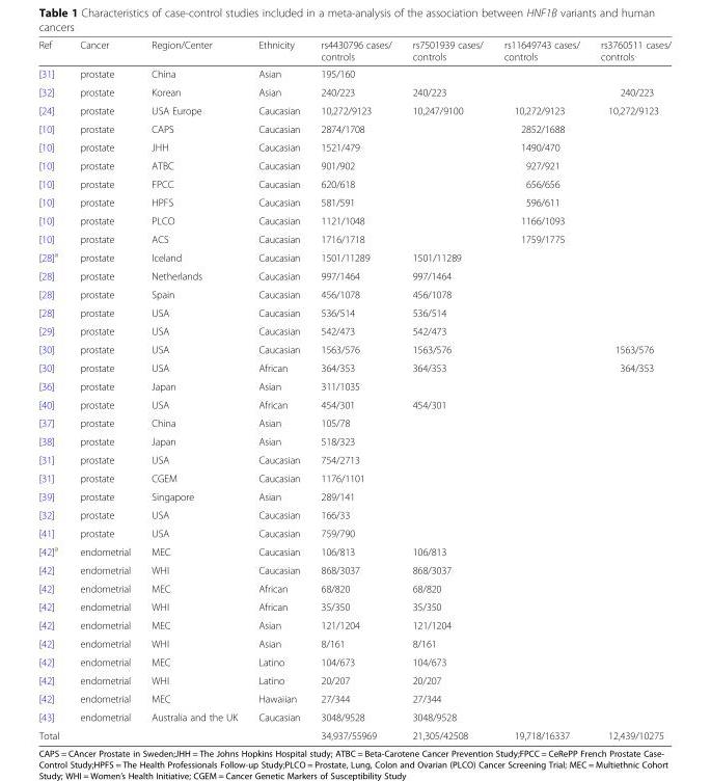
<table><thead><tr><td>Ref</td><td>Cancer</td><td>Region/Center</td><td>Ethnicity</td><td>rs4430796 cases/ controls</td><td>rs7501939 cases/ controls</td><td>rs11649743 cases/ controls</td><td>rs3760511 cases/ controls</td></tr></thead><tbody><tr><td>[31]</td><td>prostate</td><td>China</td><td>Asian</td><td>195/160</td><td></td><td></td><td></td></tr><tr><td>[32]</td><td>prostate</td><td>Korean</td><td>Asian</td><td>240/223</td><td>240/223</td><td></td><td>240/223</td></tr><tr><td>[24]</td><td>prostate</td><td>USA Europe</td><td>Caucasian</td><td>10,272/9123</td><td>10,247/9100</td><td>10,272/9123</td><td>10,272/9123</td></tr><tr><td>[10]</td><td>prostate</td><td>CAPS</td><td>Caucasian</td><td>2874/1708</td><td></td><td>2852/1688</td><td></td></tr><tr><td>[10]</td><td>prostate</td><td>JHH</td><td>Caucasian</td><td>1521/479</td><td></td><td>1490/470</td><td></td></tr><tr><td>[10]</td><td>prostate</td><td>ATBC</td><td>Caucasian</td><td>901/902</td><td></td><td>927/921</td><td></td></tr><tr><td>[10]</td><td>prostate</td><td>FPCC</td><td>Caucasian</td><td>620/618</td><td></td><td>656/656</td><td></td></tr><tr><td>[10]</td><td>prostate</td><td>HPFS</td><td>Caucasian</td><td>581/591</td><td></td><td>596/611</td><td></td></tr><tr><td>[10]</td><td>prostate</td><td>PLCO</td><td>Caucasian</td><td>1121/1048</td><td></td><td>1166/1093</td><td></td></tr><tr><td>[10]</td><td>prostate</td><td>ACS</td><td>Caucasian</td><td>1716/1718</td><td></td><td>1759/1775</td><td></td></tr><tr><td>[28]<sup>a</sup></td><td>prostate</td><td>Iceland</td><td>Caucasian</td><td>1501/11289</td><td>1501/11289</td><td></td><td></td></tr><tr><td>[28]</td><td>prostate</td><td>Netherlands</td><td>Caucasian</td><td>997/1464</td><td>997/1464</td><td></td><td></td></tr><tr><td>[28]</td><td>prostate</td><td>Spain</td><td>Caucasian</td><td>456/1078</td><td>456/1078</td><td></td><td></td></tr><tr><td>[28]</td><td>prostate</td><td>USA</td><td>Caucasian</td><td>536/514</td><td>536/514</td><td></td><td></td></tr><tr><td>[29]</td><td>prostate</td><td>USA</td><td>Caucasian</td><td>542/473</td><td>542/473</td><td></td><td></td></tr><tr><td>[30]</td><td>prostate</td><td>USA</td><td>Caucasian</td><td>1563/576</td><td>1563/576</td><td></td><td>1563/576</td></tr><tr><td>[30]</td><td>prostate</td><td>USA</td><td>African</td><td>364/353</td><td>364/353</td><td></td><td>364/353</td></tr><tr><td>[36]</td><td>prostate</td><td>Japan</td><td>Asian</td><td>311/1035</td><td></td><td></td><td></td></tr><tr><td>[40]</td><td>prostate</td><td>USA</td><td>African</td><td>454/301</td><td>454/301</td><td></td><td></td></tr><tr><td>[37]</td><td>prostate</td><td>China</td><td>Asian</td><td>105/78</td><td></td><td></td><td></td></tr><tr><td>[38]</td><td>prostate</td><td>Japan</td><td>Asian</td><td>518/323</td><td></td><td></td><td></td></tr><tr><td>[31]</td><td>prostate</td><td>USA</td><td>Caucasian</td><td>754/2713</td><td></td><td></td><td></td></tr><tr><td>[31]</td><td>prostate</td><td>CGEM</td><td>Caucasian</td><td>1176/1101</td><td></td><td></td><td></td></tr><tr><td>[39]</td><td>prostate</td><td>Singapore</td><td>Asian</td><td>289/141</td><td></td><td></td><td></td></tr><tr><td>[32]</td><td>prostate</td><td>USA</td><td>Caucasian</td><td>166/33</td><td></td><td></td><td></td></tr><tr><td>[41]</td><td>prostate</td><td>USA</td><td>Caucasian</td><td>759/790</td><td></td><td></td><td></td></tr><tr><td>[42]<sup>a</sup></td><td>endometrial</td><td>MEC</td><td>Caucasian</td><td>106/813</td><td>106/813</td><td></td><td></td></tr><tr><td>[42]</td><td>endometrial</td><td>WHI</td><td>Caucasian</td><td>868/3037</td><td>868/3037</td><td></td><td></td></tr><tr><td>[42]</td><td>endometrial</td><td>MEC</td><td>African</td><td>68/820</td><td>68/820</td><td></td><td></td></tr><tr><td>[42]</td><td>endometrial</td><td>WHI</td><td>African</td><td>35/350</td><td>35/350</td><td></td><td></td></tr><tr><td>[42]</td><td>endometrial</td><td>MEC</td><td>Asian</td><td>121/1204</td><td>121/1204</td><td></td><td></td></tr><tr><td>[42]</td><td>endometrial</td><td>WHI</td><td>Asian</td><td>8/161</td><td>8/161</td><td></td><td></td></tr><tr><td>[42]</td><td>endometrial</td><td>MEC</td><td>Latino</td><td>104/673</td><td>104/673</td><td></td><td></td></tr><tr><td>[42]</td><td>endometrial</td><td>WHI</td><td>Latino</td><td>20/207</td><td>20/207</td><td></td><td></td></tr><tr><td>[42]</td><td>endometrial</td><td>MEC</td><td>Hawaiian</td><td>27/344</td><td>27/344</td><td></td><td></td></tr><tr><td>[43]</td><td>endometrial</td><td>Australia and the UK</td><td>Caucasian</td><td>3048/9528</td><td>3048/9528</td><td></td><td></td></tr><tr><td>Total</td><td></td><td></td><td></td><td>34,937/55969</td><td>21,305/42508</td><td>19,718/16337</td><td>12,439/10275</td></tr></tbody></table>